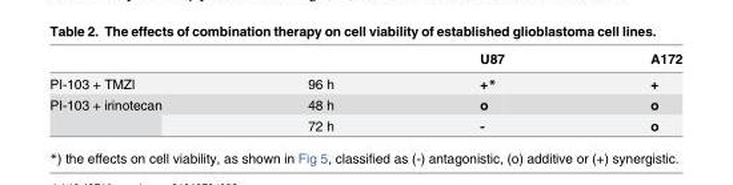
<table><thead><tr><td></td><td></td><td>U87</td><td>A172</td></tr></thead><tbody><tr><td>PI-103 + TMZl</td><td>96 h</td><td>+*</td><td>+</td></tr><tr><td rowspan="2">PI-103 + irinotecan</td><td>48 h</td><td>o</td><td>o</td></tr><tr><td>72 h</td><td>-</td><td>o</td></tr></tbody></table>